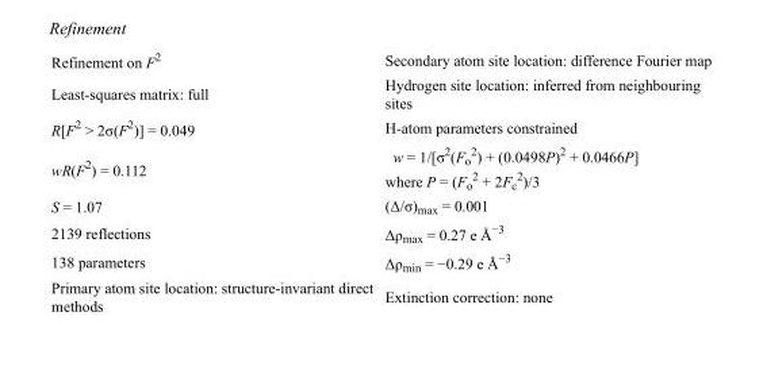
<table><tbody><tr><td>Refinement on F<sup>2</sup></td><td>Secondary atom site location: difference Fourier map</td></tr><tr><td>Least-squares matrix: full</td><td>Hydrogen site location: inferred from neighbouring sites</td></tr><tr><td>R[F<sup>2</sup> &gt; 2σ(F<sup>2</sup>)] = 0.049</td><td>H-atom parameters constrained</td></tr><tr><td>wR(F<sup>2</sup>) = 0.112</td><td>w = 1/[σ<sup>2</sup>(F<sub>o</sub> <sup>2</sup>) + (0.0498P)<sup>2</sup> + 0.0466P] where P = (F<sub>o</sub> <sup>2</sup> + 2F<sub>c</sub> <sup>2</sup>)/3</td></tr><tr><td>S = 1.07</td><td>(Δ/σ)<sub>max</sub> = 0.001</td></tr><tr><td>2139 reflections</td><td>Δρ<sub>max</sub> = 0.27 e Å<sup>−3</sup></td></tr><tr><td>138 parameters</td><td>Δρ<sub>min</sub> = −0.29 e Å<sup>−3</sup></td></tr><tr><td>Primary atom site location: structure-invariant direct methods</td><td>Extinction correction: none</td></tr></tbody></table>